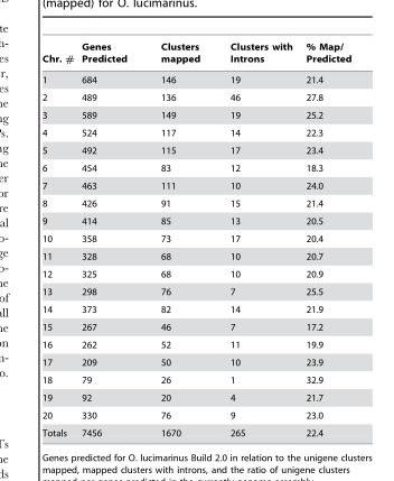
<table><thead><tr><td>Chr. #</td><td>Genes Predicted</td><td>Clusters mapped</td><td>Clusters with Introns</td><td>% Map/ Predicted</td></tr></thead><tbody><tr><td>1</td><td>684</td><td>146</td><td>19</td><td>21.4</td></tr><tr><td>2</td><td>489</td><td>136</td><td>46</td><td>27.8</td></tr><tr><td>3</td><td>589</td><td>149</td><td>19</td><td>25.2</td></tr><tr><td>4</td><td>524</td><td>117</td><td>14</td><td>22.3</td></tr><tr><td>5</td><td>492</td><td>115</td><td>17</td><td>23.4</td></tr><tr><td>6</td><td>454</td><td>83</td><td>12</td><td>18.3</td></tr><tr><td>7</td><td>463</td><td>111</td><td>10</td><td>24.0</td></tr><tr><td>8</td><td>426</td><td>91</td><td>15</td><td>21.4</td></tr><tr><td>9</td><td>414</td><td>85</td><td>13</td><td>20.5</td></tr><tr><td>10</td><td>358</td><td>73</td><td>17</td><td>20.4</td></tr><tr><td>11</td><td>328</td><td>68</td><td>10</td><td>20.7</td></tr><tr><td>12</td><td>325</td><td>68</td><td>10</td><td>20.9</td></tr><tr><td>13</td><td>298</td><td>76</td><td>7</td><td>25.5</td></tr><tr><td>14</td><td>373</td><td>82</td><td>14</td><td>21.9</td></tr><tr><td>15</td><td>267</td><td>46</td><td>7</td><td>17.2</td></tr><tr><td>16</td><td>262</td><td>52</td><td>11</td><td>19.9</td></tr><tr><td>17</td><td>209</td><td>50</td><td>10</td><td>23.9</td></tr><tr><td>18</td><td>79</td><td>26</td><td>1</td><td>32.9</td></tr><tr><td>19</td><td>92</td><td>20</td><td>4</td><td>21.7</td></tr><tr><td>20</td><td>330</td><td>76</td><td>9</td><td>23.0</td></tr><tr><td>Totals</td><td>7456</td><td>1670</td><td>265</td><td>22.4</td></tr></tbody></table>